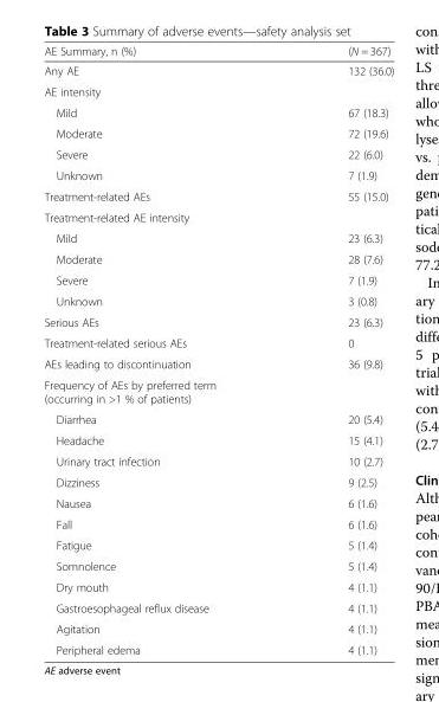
<table><thead><tr><td>AE Summary, n (%)</td><td>(N = 367)</td></tr></thead><tbody><tr><td>Any AE</td><td>132 (36.0)</td></tr><tr><td colspan="2">AE intensity</td></tr><tr><td>Mild</td><td>67 (18.3)</td></tr><tr><td>Moderate</td><td>72 (19.6)</td></tr><tr><td>Severe</td><td>22 (6.0)</td></tr><tr><td>Unknown</td><td>7 (1.9)</td></tr><tr><td>Treatment-related AEs</td><td>55 (15.0)</td></tr><tr><td colspan="2">Treatment-related AE intensity</td></tr><tr><td>Mild</td><td>23 (6.3)</td></tr><tr><td>Moderate</td><td>28 (7.6)</td></tr><tr><td>Severe</td><td>7 (1.9)</td></tr><tr><td>Unknown</td><td>3 (0.8)</td></tr><tr><td>Serious AEs</td><td>23 (6.3)</td></tr><tr><td>Treatment-related serious AEs</td><td>0</td></tr><tr><td>AEs leading to discontinuation</td><td>36 (9.8)</td></tr><tr><td colspan="2">Frequency of AEs by preferred term (occurring in &gt;1 % of patients)</td></tr><tr><td>Diarrhea</td><td>20 (5.4)</td></tr><tr><td>Headache</td><td>15 (4.1)</td></tr><tr><td>Urinary tract infection</td><td>10 (2.7)</td></tr><tr><td>Dizziness</td><td>9 (2.5)</td></tr><tr><td>Nausea</td><td>6 (1.6)</td></tr><tr><td>Fall</td><td>6 (1.6)</td></tr><tr><td>Fatigue</td><td>5 (1.4)</td></tr><tr><td>Somnolence</td><td>5 (1.4)</td></tr><tr><td>Dry mouth</td><td>4 (1.1)</td></tr><tr><td>Gastroesophageal reflux disease</td><td>4 (1.1)</td></tr><tr><td>Agitation</td><td>4 (1.1)</td></tr><tr><td>Peripheral edema</td><td>4 (1.1)</td></tr></tbody></table>